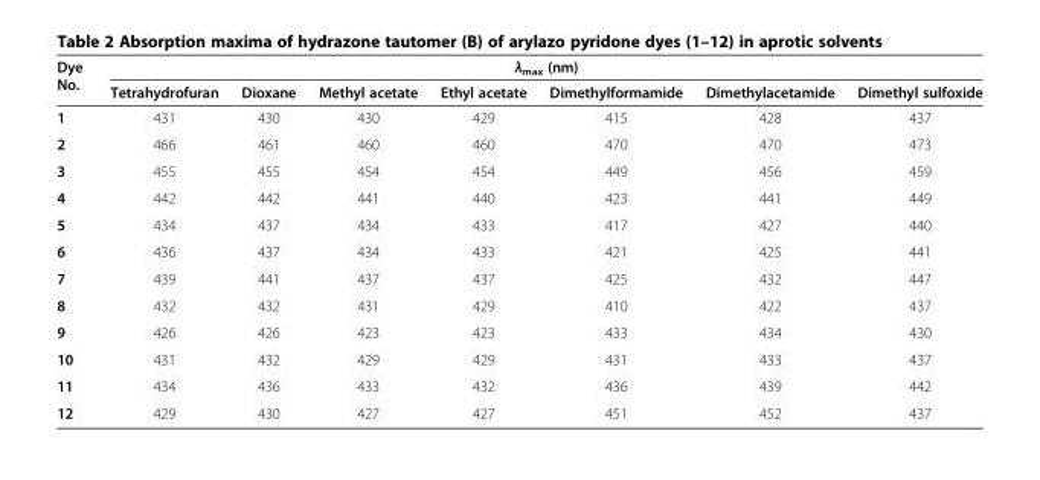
<table><thead><tr><td rowspan="2">Dye No.</td><td colspan="7">λ<sub>max</sub> (nm)</td></tr><tr><td>Tetrahydrofuran</td><td>Dioxane</td><td>Methyl acetate</td><td>Ethyl acetate</td><td>Dimethylformamide</td><td>Dimethylacetamide</td><td>Dimethyl sulfoxide</td></tr></thead><tbody><tr><td>1</td><td>431</td><td>430</td><td>430</td><td>429</td><td>415</td><td>428</td><td>437</td></tr><tr><td>2</td><td>466</td><td>461</td><td>460</td><td>460</td><td>470</td><td>470</td><td>473</td></tr><tr><td>3</td><td>455</td><td>455</td><td>454</td><td>454</td><td>449</td><td>456</td><td>459</td></tr><tr><td>4</td><td>442</td><td>442</td><td>441</td><td>440</td><td>423</td><td>441</td><td>449</td></tr><tr><td>5</td><td>434</td><td>437</td><td>434</td><td>433</td><td>417</td><td>427</td><td>440</td></tr><tr><td>6</td><td>436</td><td>437</td><td>434</td><td>433</td><td>421</td><td>425</td><td>441</td></tr><tr><td>7</td><td>439</td><td>441</td><td>437</td><td>437</td><td>425</td><td>432</td><td>447</td></tr><tr><td>8</td><td>432</td><td>432</td><td>431</td><td>429</td><td>410</td><td>422</td><td>437</td></tr><tr><td>9</td><td>426</td><td>426</td><td>423</td><td>423</td><td>433</td><td>434</td><td>430</td></tr><tr><td>10</td><td>431</td><td>432</td><td>429</td><td>429</td><td>431</td><td>433</td><td>437</td></tr><tr><td>11</td><td>434</td><td>436</td><td>433</td><td>432</td><td>436</td><td>439</td><td>442</td></tr><tr><td>12</td><td>429</td><td>430</td><td>427</td><td>427</td><td>451</td><td>452</td><td>437</td></tr></tbody></table>